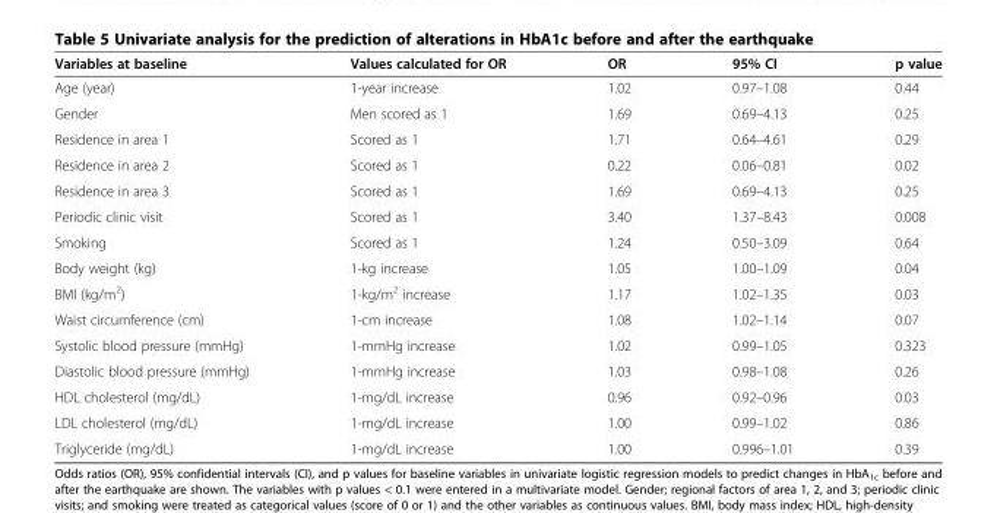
<table><thead><tr><td>Variables at baseline</td><td>Values calculated for OR</td><td>OR</td><td>95% CI</td><td>p value</td></tr></thead><tbody><tr><td>Age (year)</td><td>1-year increase</td><td>1.02</td><td>0.97–1.08</td><td>0.44</td></tr><tr><td>Gender</td><td>Men scored as 1</td><td>1.69</td><td>0.69–4.13</td><td>0.25</td></tr><tr><td>Residence in area 1</td><td>Scored as 1</td><td>1.71</td><td>0.64–4.61</td><td>0.29</td></tr><tr><td>Residence in area 2</td><td>Scored as 1</td><td>0.22</td><td>0.06–0.81</td><td>0.02</td></tr><tr><td>Residence in area 3</td><td>Scored as 1</td><td>1.69</td><td>0.69–4.13</td><td>0.25</td></tr><tr><td>Periodic clinic visit</td><td>Scored as 1</td><td>3.40</td><td>1.37–8.43</td><td>0.008</td></tr><tr><td>Smoking</td><td>Scored as 1</td><td>1.24</td><td>0.50–3.09</td><td>0.64</td></tr><tr><td>Body weight (kg)</td><td>1-kg increase</td><td>1.05</td><td>1.00–1.09</td><td>0.04</td></tr><tr><td>BMI (kg/m<sup>2</sup>)</td><td>1-kg/m<sup>2</sup> increase</td><td>1.17</td><td>1.02–1.35</td><td>0.03</td></tr><tr><td>Waist circumference (cm)</td><td>1-cm increase</td><td>1.08</td><td>1.02–1.14</td><td>0.07</td></tr><tr><td>Systolic blood pressure (mmHg)</td><td>1-mmHg increase</td><td>1.02</td><td>0.99–1.05</td><td>0.323</td></tr><tr><td>Diastolic blood pressure (mmHg)</td><td>1-mmHg increase</td><td>1.03</td><td>0.98–1.08</td><td>0.26</td></tr><tr><td>HDL cholesterol (mg/dL)</td><td>1-mg/dL increase</td><td>0.96</td><td>0.92–0.96</td><td>0.03</td></tr><tr><td>LDL cholesterol (mg/dL)</td><td>1-mg/dL increase</td><td>1.00</td><td>0.99–1.02</td><td>0.86</td></tr><tr><td>Triglyceride (mg/dL)</td><td>1-mg/dL increase</td><td>1.00</td><td>0.996–1.01</td><td>0.39</td></tr></tbody></table>